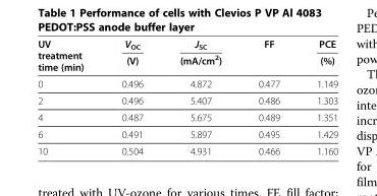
<table><thead><tr><td rowspan="2">UV treatment time (min)</td><td rowspan="2">V<sub>OC</sub> (V)</td><td rowspan="2">J<sub>SC</sub> (mA/cm<sup>2</sup>)</td><td rowspan="2">FF</td><td rowspan="2">PCE (%)</td></tr><tr></tr></thead><tbody><tr><td>0</td><td>0.496</td><td>4.872</td><td>0.477</td><td>1.149</td></tr><tr><td>2</td><td>0.496</td><td>5.407</td><td>0.486</td><td>1.303</td></tr><tr><td>4</td><td>0.487</td><td>5.675</td><td>0.489</td><td>1.351</td></tr><tr><td>6</td><td>0.491</td><td>5.897</td><td>0.495</td><td>1.429</td></tr><tr><td>10</td><td>0.504</td><td>4.931</td><td>0.466</td><td>1.160</td></tr></tbody></table>